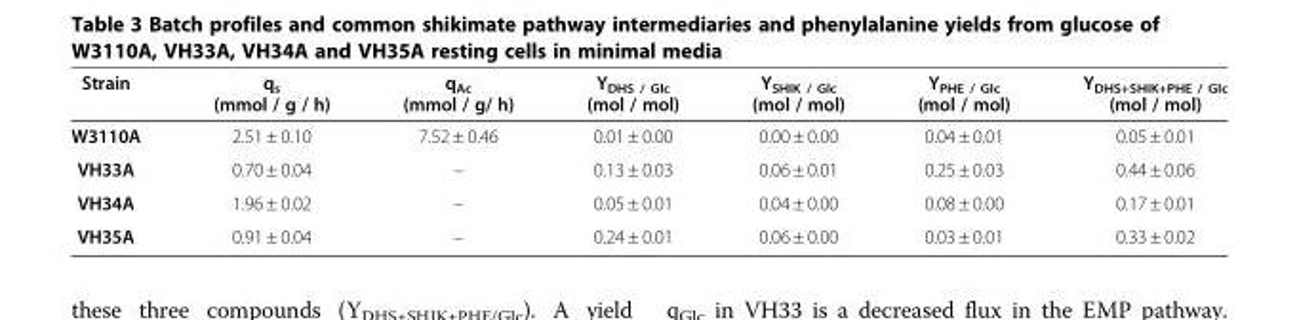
<table><thead><tr><td>Strain</td><td>q<sub>s</sub> (mmol / g / h)</td><td>q<sub>Ac</sub> (mmol / g/ h)</td><td>Y<sub>DHS / Glc</sub> (mol / mol)</td><td>Y<sub>SHIK / Glc</sub> (mol / mol)</td><td>Y<sub>PHE / Glc</sub> (mol / mol)</td><td>Y<sub>DHS+SHIK+PHE / Glc</sub> (mol / mol)</td></tr></thead><tbody><tr><td>W3110A</td><td>2.51 ± 0.10</td><td>7.52 ± 0.46</td><td>0.01 ± 0.00</td><td>0.00 ± 0.00</td><td>0.04 ± 0.01</td><td>0.05 ± 0.01</td></tr><tr><td>VH33A</td><td>0.70 ± 0.04</td><td>–</td><td>0.13 ± 0.03</td><td>0.06 ± 0.01</td><td>0.25 ± 0.03</td><td>0.44 ± 0.06</td></tr><tr><td>VH34A</td><td>1.96 ± 0.02</td><td>–</td><td>0.05 ± 0.01</td><td>0.04 ± 0.00</td><td>0.08 ± 0.00</td><td>0.17 ± 0.01</td></tr><tr><td>VH35A</td><td>0.91 ± 0.04</td><td>–</td><td>0.24 ± 0.01</td><td>0.06 ± 0.00</td><td>0.03 ± 0.01</td><td>0.33 ± 0.02</td></tr></tbody></table>